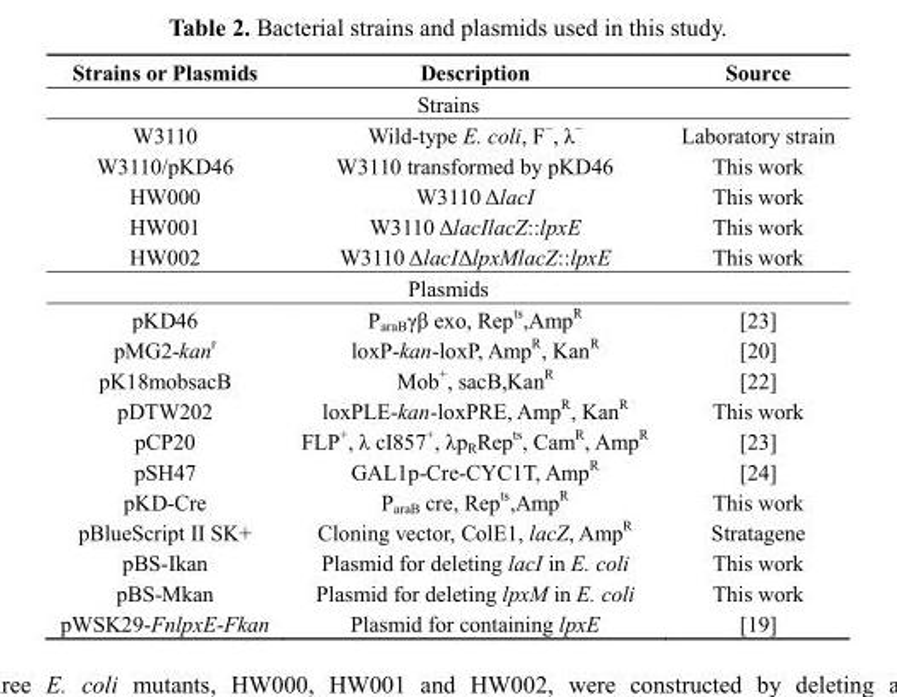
<table><thead><tr><td>Strains or Plasmids</td><td>Description</td><td>Source</td></tr></thead><tbody><tr><td colspan="3">Strains</td></tr><tr><td>W3110</td><td>Wild-type E. coli, F<sup>−</sup>, λ<sup>−</sup></td><td>Laboratory strain</td></tr><tr><td>W3110/pKD46</td><td>W3110 transformed by pKD46</td><td>This work</td></tr><tr><td>HW000</td><td>W3110 ΔlacI</td><td>This work</td></tr><tr><td>HW001</td><td>W3110 ΔlacIlacZ::lpxE</td><td>This work</td></tr><tr><td>HW002</td><td>W3110 ΔlacIΔlpxMlacZ::lpxE</td><td>This work</td></tr><tr><td colspan="3">Plasmids</td></tr><tr><td>pKD46</td><td>P<sub>araB</sub>γβ exo, Rep<sup>ts</sup>,Amp<sup>R</sup></td><td>[23]</td></tr><tr><td>pMG2-kan<sup>r</sup></td><td>loxP-kan-loxP, Amp<sup>R</sup>, Kan<sup>R</sup></td><td>[20]</td></tr><tr><td>pK18mobsacB</td><td>Mob<sup>+</sup>, sacB,Kan<sup>R</sup></td><td>[22]</td></tr><tr><td>pDTW202</td><td>loxPLE-kan-loxPRE, Amp<sup>R</sup>, Kan<sup>R</sup></td><td>This work</td></tr><tr><td>pCP20</td><td>FLP<sup>+</sup>, λ cI857<sup>+</sup>, λp<sub>R</sub>Rep<sup>ts</sup>, Cam<sup>R</sup>, Amp<sup>R</sup></td><td>[23]</td></tr><tr><td>pSH47</td><td>GAL1p-Cre-CYC1T, Amp<sup>R</sup></td><td>[24]</td></tr><tr><td>pKD-Cre</td><td>P<sub>araB</sub> cre, Rep<sup>ts</sup>,Amp<sup>R</sup></td><td>This work</td></tr><tr><td>pBlueScript II SK+</td><td>Cloning vector, ColE1, lacZ, Amp<sup>R</sup></td><td>Stratagene</td></tr><tr><td>pBS-Ikan</td><td>Plasmid for deleting lacI in E. coli</td><td>This work</td></tr><tr><td>pBS-Mkan</td><td>Plasmid for deleting lpxM in E. coli</td><td>This work</td></tr><tr><td>pWSK29-FnlpxE-Fkan</td><td>Plasmid for containing lpxE</td><td>[19]</td></tr></tbody></table>